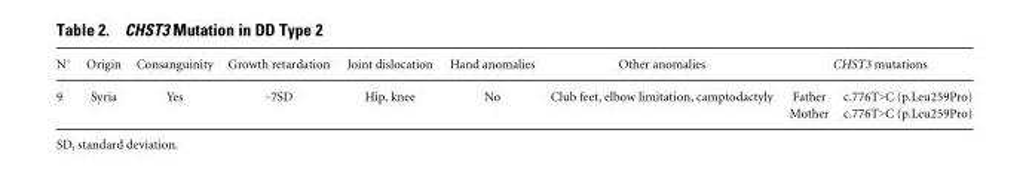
<table><thead><tr><td>N◦</td><td>Origin</td><td>Consanguinity</td><td>Growth retardation</td><td>Joint dislocation</td><td>Hand anomalies</td><td>Other anomalies</td><td></td><td>CHST3 mutations</td></tr></thead><tbody><tr><td rowspan="2">9</td><td>Syria</td><td>Yes</td><td>–7SD</td><td>Hip, knee</td><td>No</td><td>Club feet, elbow limitation, camptodactyly</td><td>Father</td><td>c.776T&gt;C (p.Leu259Pro)</td></tr><tr><td></td><td></td><td></td><td></td><td></td><td></td><td>Mother</td><td>c.776T&gt;C (p.Leu259Pro)</td></tr></tbody></table>